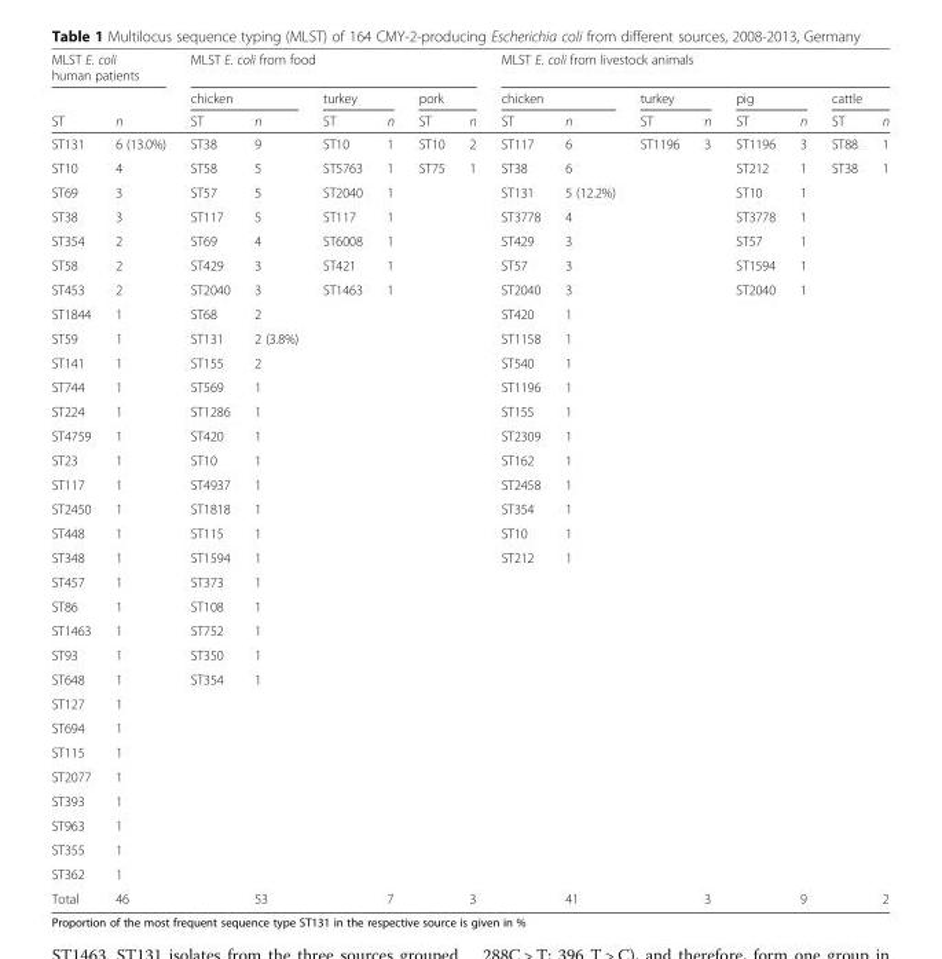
<table><thead><tr><td colspan="2">MLST E. coli human patients</td><td colspan="6">MLST E. coli from food</td><td colspan="8">MLST E. coli from livestock animals</td></tr><tr><td rowspan="2">ST</td><td rowspan="2">n</td><td colspan="2">chicken</td><td colspan="2">turkey</td><td colspan="2">pork</td><td colspan="2">chicken</td><td colspan="2">turkey</td><td colspan="2">pig</td><td colspan="2">cattle</td></tr><tr><td>ST</td><td>n</td><td>ST</td><td>n</td><td>ST</td><td>n</td><td>ST</td><td>n</td><td>ST</td><td>n</td><td>ST</td><td>n</td><td>ST</td><td>n</td></tr></thead><tbody><tr><td>ST131</td><td>6 (13.0%)</td><td>ST38</td><td>9</td><td>ST10</td><td>1</td><td>ST10</td><td>2</td><td>ST117</td><td>6</td><td>ST1196</td><td>3</td><td>ST1196</td><td>3</td><td>ST88</td><td>1</td></tr><tr><td>ST10</td><td>4</td><td>ST58</td><td>5</td><td>ST5763</td><td>1</td><td>ST75</td><td>1</td><td>ST38</td><td>6</td><td></td><td></td><td>ST212</td><td>1</td><td>ST38</td><td>1</td></tr><tr><td>ST69</td><td>3</td><td>ST57</td><td>5</td><td>ST2040</td><td>1</td><td></td><td></td><td>ST131</td><td>5 (12.2%)</td><td></td><td></td><td>ST10</td><td>1</td><td></td><td></td></tr><tr><td>ST38</td><td>3</td><td>ST117</td><td>5</td><td>ST117</td><td>1</td><td></td><td></td><td>ST3778</td><td>4</td><td></td><td></td><td>ST3778</td><td>1</td><td></td><td></td></tr><tr><td>ST354</td><td>2</td><td>ST69</td><td>4</td><td>ST6008</td><td>1</td><td></td><td></td><td>ST429</td><td>3</td><td></td><td></td><td>ST57</td><td>1</td><td></td><td></td></tr><tr><td>ST58</td><td>2</td><td>ST429</td><td>3</td><td>ST421</td><td>1</td><td></td><td></td><td>ST57</td><td>3</td><td></td><td></td><td>ST1594</td><td>1</td><td></td><td></td></tr><tr><td>ST453</td><td>2</td><td>ST2040</td><td>3</td><td>ST1463</td><td>1</td><td></td><td></td><td>ST2040</td><td>3</td><td></td><td></td><td>ST2040</td><td>1</td><td></td><td></td></tr><tr><td>ST1844</td><td>1</td><td>ST68</td><td>2</td><td></td><td></td><td></td><td></td><td>ST420</td><td>1</td><td></td><td></td><td></td><td></td><td></td><td></td></tr><tr><td>ST59</td><td>1</td><td>ST131</td><td>2 (3.8%)</td><td></td><td></td><td></td><td></td><td>ST1158</td><td>1</td><td></td><td></td><td></td><td></td><td></td><td></td></tr><tr><td>ST141</td><td>1</td><td>ST155</td><td>2</td><td></td><td></td><td></td><td></td><td>ST540</td><td>1</td><td></td><td></td><td></td><td></td><td></td><td></td></tr><tr><td>ST744</td><td>1</td><td>ST569</td><td>1</td><td></td><td></td><td></td><td></td><td>ST1196</td><td>1</td><td></td><td></td><td></td><td></td><td></td><td></td></tr><tr><td>ST224</td><td>1</td><td>ST1286</td><td>1</td><td></td><td></td><td></td><td></td><td>ST155</td><td>1</td><td></td><td></td><td></td><td></td><td></td><td></td></tr><tr><td>ST4759</td><td>1</td><td>ST420</td><td>1</td><td></td><td></td><td></td><td></td><td>ST2309</td><td>1</td><td></td><td></td><td></td><td></td><td></td><td></td></tr><tr><td>ST23</td><td>1</td><td>ST10</td><td>1</td><td></td><td></td><td></td><td></td><td>ST162</td><td>1</td><td></td><td></td><td></td><td></td><td></td><td></td></tr><tr><td>ST117</td><td>1</td><td>ST4937</td><td>1</td><td></td><td></td><td></td><td></td><td>ST2458</td><td>1</td><td></td><td></td><td></td><td></td><td></td><td></td></tr><tr><td>ST2450</td><td>1</td><td>ST1818</td><td>1</td><td></td><td></td><td></td><td></td><td>ST354</td><td>1</td><td></td><td></td><td></td><td></td><td></td><td></td></tr><tr><td>ST448</td><td>1</td><td>ST115</td><td>1</td><td></td><td></td><td></td><td></td><td>ST10</td><td>1</td><td></td><td></td><td></td><td></td><td></td><td></td></tr><tr><td>ST348</td><td>1</td><td>ST1594</td><td>1</td><td></td><td></td><td></td><td></td><td>ST212</td><td>1</td><td></td><td></td><td></td><td></td><td></td><td></td></tr><tr><td>ST457</td><td>1</td><td>ST373</td><td>1</td><td></td><td></td><td></td><td></td><td></td><td></td><td></td><td></td><td></td><td></td><td></td><td></td></tr><tr><td>ST86</td><td>1</td><td>ST108</td><td>1</td><td></td><td></td><td></td><td></td><td></td><td></td><td></td><td></td><td></td><td></td><td></td><td></td></tr><tr><td>ST1463</td><td>1</td><td>ST752</td><td>1</td><td></td><td></td><td></td><td></td><td></td><td></td><td></td><td></td><td></td><td></td><td></td><td></td></tr><tr><td>ST93</td><td>1</td><td>ST350</td><td>1</td><td></td><td></td><td></td><td></td><td></td><td></td><td></td><td></td><td></td><td></td><td></td><td></td></tr><tr><td>ST648</td><td>1</td><td>ST354</td><td>1</td><td></td><td></td><td></td><td></td><td></td><td></td><td></td><td></td><td></td><td></td><td></td><td></td></tr><tr><td>ST127</td><td>1</td><td></td><td></td><td></td><td></td><td></td><td></td><td></td><td></td><td></td><td></td><td></td><td></td><td></td><td></td></tr><tr><td>ST694</td><td>1</td><td></td><td></td><td></td><td></td><td></td><td></td><td></td><td></td><td></td><td></td><td></td><td></td><td></td><td></td></tr><tr><td>ST115</td><td>1</td><td></td><td></td><td></td><td></td><td></td><td></td><td></td><td></td><td></td><td></td><td></td><td></td><td></td><td></td></tr><tr><td>ST2077</td><td>1</td><td></td><td></td><td></td><td></td><td></td><td></td><td></td><td></td><td></td><td></td><td></td><td></td><td></td><td></td></tr><tr><td>ST393</td><td>1</td><td></td><td></td><td></td><td></td><td></td><td></td><td></td><td></td><td></td><td></td><td></td><td></td><td></td><td></td></tr><tr><td>ST963</td><td>1</td><td></td><td></td><td></td><td></td><td></td><td></td><td></td><td></td><td></td><td></td><td></td><td></td><td></td><td></td></tr><tr><td>ST355</td><td>1</td><td></td><td></td><td></td><td></td><td></td><td></td><td></td><td></td><td></td><td></td><td></td><td></td><td></td><td></td></tr><tr><td>ST362</td><td>1</td><td></td><td></td><td></td><td></td><td></td><td></td><td></td><td></td><td></td><td></td><td></td><td></td><td></td><td></td></tr><tr><td>Total</td><td>46</td><td></td><td>53</td><td></td><td>7</td><td></td><td>3</td><td></td><td>41</td><td></td><td>3</td><td></td><td>9</td><td></td><td>2</td></tr></tbody></table>